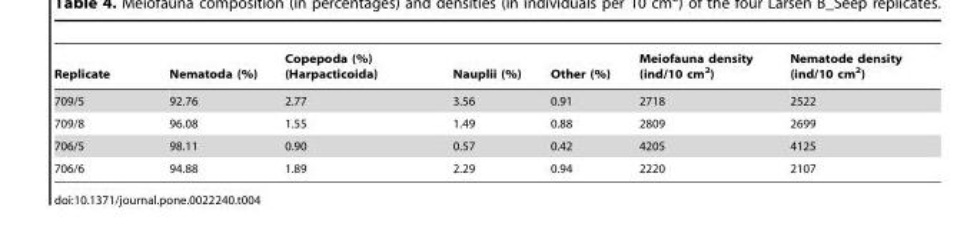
<table><thead><tr><td>Replicate</td><td>Nematoda (%)</td><td>Copepoda (%) (Harpacticoida)</td><td>Nauplii (%)</td><td>Other (%)</td><td>Meiofauna density (ind/10 cm<sup>2</sup>)</td><td>Nematode density (ind/10 cm<sup>2</sup>)</td></tr></thead><tbody><tr><td>709/5</td><td>92.76</td><td>2.77</td><td>3.56</td><td>0.91</td><td>2718</td><td>2522</td></tr><tr><td>709/8</td><td>96.08</td><td>1.55</td><td>1.49</td><td>0.88</td><td>2809</td><td>2699</td></tr><tr><td>706/5</td><td>98.11</td><td>0.90</td><td>0.57</td><td>0.42</td><td>4205</td><td>4125</td></tr><tr><td>706/6</td><td>94.88</td><td>1.89</td><td>2.29</td><td>0.94</td><td>2220</td><td>2107</td></tr></tbody></table>